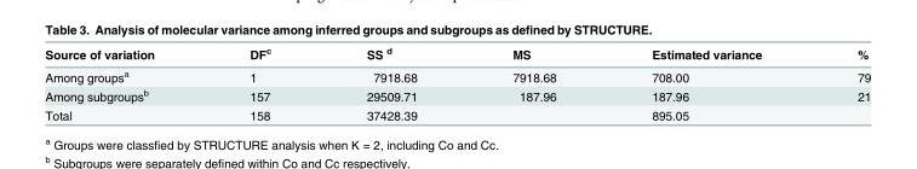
<table><thead><tr><td>Source of variation</td><td>DF<sup>c</sup></td><td>SS <sup>d</sup></td><td>MS</td><td>Estimated variance</td><td>%</td></tr></thead><tbody><tr><td>Among groups<sup>a</sup></td><td>1</td><td>7918.68</td><td>7918.68</td><td>708.00</td><td>79</td></tr><tr><td>Among subgroups<sup>b</sup></td><td>157</td><td>29509.71</td><td>187.96</td><td>187.96</td><td>21</td></tr><tr><td>Total</td><td>158</td><td>37428.39</td><td></td><td>895.05</td><td></td></tr></tbody></table>